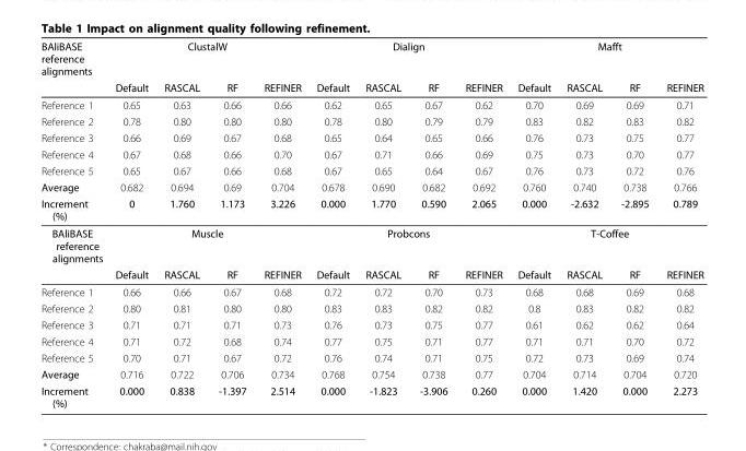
<table><thead><tr><td rowspan="2">BAliBASE reference alignments</td><td colspan="4">ClustalW</td><td colspan="4">Dialign</td><td colspan="4">Mafft</td></tr><tr><td>Default</td><td>RASCAL</td><td>RF</td><td>REFINER</td><td>Default</td><td>RASCAL</td><td>RF</td><td>REFINER</td><td>Default</td><td>RASCAL</td><td>RF</td><td>REFINER</td></tr></thead><tbody><tr><td>Reference 1</td><td>0.65</td><td>0.63</td><td>0.66</td><td>0.66</td><td>0.62</td><td>0.65</td><td>0.67</td><td>0.62</td><td>0.70</td><td>0.69</td><td>0.69</td><td>0.71</td></tr><tr><td>Reference 2</td><td>0.78</td><td>0.80</td><td>0.80</td><td>0.80</td><td>0.78</td><td>0.80</td><td>0.79</td><td>0.79</td><td>0.83</td><td>0.82</td><td>0.83</td><td>0.82</td></tr><tr><td>Reference 3</td><td>0.66</td><td>0.69</td><td>0.67</td><td>0.68</td><td>0.65</td><td>0.64</td><td>0.65</td><td>0.66</td><td>0.76</td><td>0.73</td><td>0.75</td><td>0.77</td></tr><tr><td>Reference 4</td><td>0.67</td><td>0.68</td><td>0.66</td><td>0.70</td><td>0.67</td><td>0.71</td><td>0.66</td><td>0.69</td><td>0.75</td><td>0.73</td><td>0.70</td><td>0.77</td></tr><tr><td>Reference 5</td><td>0.65</td><td>0.67</td><td>0.66</td><td>0.68</td><td>0.67</td><td>0.65</td><td>0.64</td><td>0.67</td><td>0.76</td><td>0.73</td><td>0.72</td><td>0.76</td></tr><tr><td>Average</td><td>0.682</td><td>0.694</td><td>0.69</td><td>0.704</td><td>0.678</td><td>0.690</td><td>0.682</td><td>0.692</td><td>0.760</td><td>0.740</td><td>0.738</td><td>0.766</td></tr><tr><td>Increment (%)</td><td>0</td><td>1.760</td><td>1.173</td><td>3.226</td><td>0.000</td><td>1.770</td><td>0.590</td><td>2.065</td><td>0.000</td><td>-2.632</td><td>-2.895</td><td>0.789</td></tr><tr><td rowspan="2">BAliBASE reference alignments</td><td colspan="4">Muscle</td><td colspan="4">Probcons</td><td colspan="4">T-Coffee</td></tr><tr><td>Default</td><td>RASCAL</td><td>RF</td><td>REFINER</td><td>Default</td><td>RASCAL</td><td>RF</td><td>REFINER</td><td>Default</td><td>RASCAL</td><td>RF</td><td>REFINER</td></tr><tr><td>Reference 1</td><td>0.66</td><td>0.66</td><td>0.67</td><td>0.68</td><td>0.72</td><td>0.72</td><td>0.70</td><td>0.73</td><td>0.68</td><td>0.68</td><td>0.69</td><td>0.68</td></tr><tr><td>Reference 2</td><td>0.80</td><td>0.81</td><td>0.80</td><td>0.80</td><td>0.83</td><td>0.83</td><td>0.82</td><td>0.82</td><td>0.8</td><td>0.83</td><td>0.82</td><td>0.82</td></tr><tr><td>Reference 3</td><td>0.71</td><td>0.71</td><td>0.71</td><td>0.73</td><td>0.76</td><td>0.73</td><td>0.75</td><td>0.77</td><td>0.61</td><td>0.62</td><td>0.62</td><td>0.64</td></tr><tr><td>Reference 4</td><td>0.71</td><td>0.72</td><td>0.68</td><td>0.74</td><td>0.77</td><td>0.75</td><td>0.71</td><td>0.77</td><td>0.71</td><td>0.71</td><td>0.70</td><td>0.72</td></tr><tr><td>Reference 5</td><td>0.70</td><td>0.71</td><td>0.67</td><td>0.72</td><td>0.76</td><td>0.74</td><td>0.71</td><td>0.75</td><td>0.72</td><td>0.73</td><td>0.69</td><td>0.74</td></tr><tr><td>Average</td><td>0.716</td><td>0.722</td><td>0.706</td><td>0.734</td><td>0.768</td><td>0.754</td><td>0.738</td><td>0.77</td><td>0.704</td><td>0.714</td><td>0.704</td><td>0.720</td></tr><tr><td>Increment (%)</td><td>0.000</td><td>0.838</td><td>-1.397</td><td>2.514</td><td>0.000</td><td>-1.823</td><td>-3.906</td><td>0.260</td><td>0.000</td><td>1.420</td><td>0.000</td><td>2.273</td></tr></tbody></table>